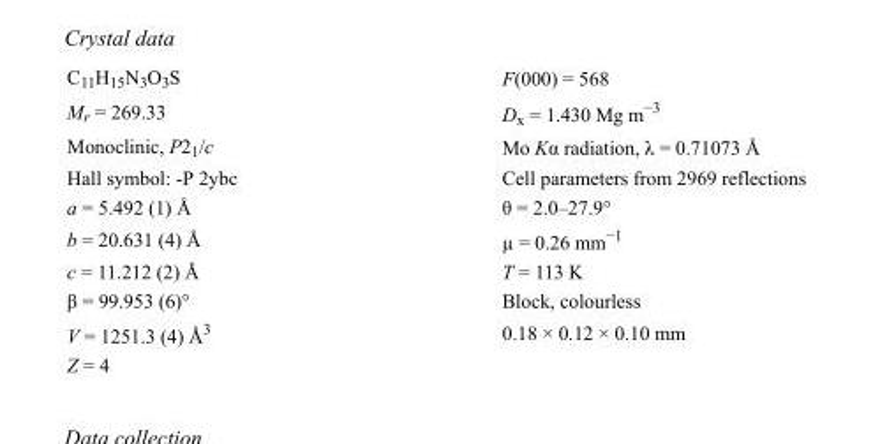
<table><tbody><tr><td>C<sub>11</sub>H<sub>15</sub>N<sub>3</sub>O<sub>3</sub>S</td><td>F(000) = 568</td></tr><tr><td>M<sub>r</sub> = 269.33</td><td>D<sub>x</sub> = 1.430 Mg m<sup>−3</sup></td></tr><tr><td>Monoclinic, P2<sub>1</sub>/c</td><td>Mo Kα radiation, λ = 0.71073 Å</td></tr><tr><td>Hall symbol: -P 2ybc</td><td>Cell parameters from 2969 reflections</td></tr><tr><td>a = 5.492 (1) Å</td><td>θ = 2.0–27.9°</td></tr><tr><td>b = 20.631 (4) Å</td><td>µ = 0.26 mm<sup>−1</sup></td></tr><tr><td>c = 11.212 (2) Å</td><td>T = 113 K</td></tr><tr><td>β = 99.953 (6)°</td><td>Block, colourless</td></tr><tr><td>V = 1251.3 (4) Å<sup>3</sup></td><td>0.18 × 0.12 × 0.10 mm</td></tr><tr><td>Z = 4</td><td></td></tr></tbody></table>